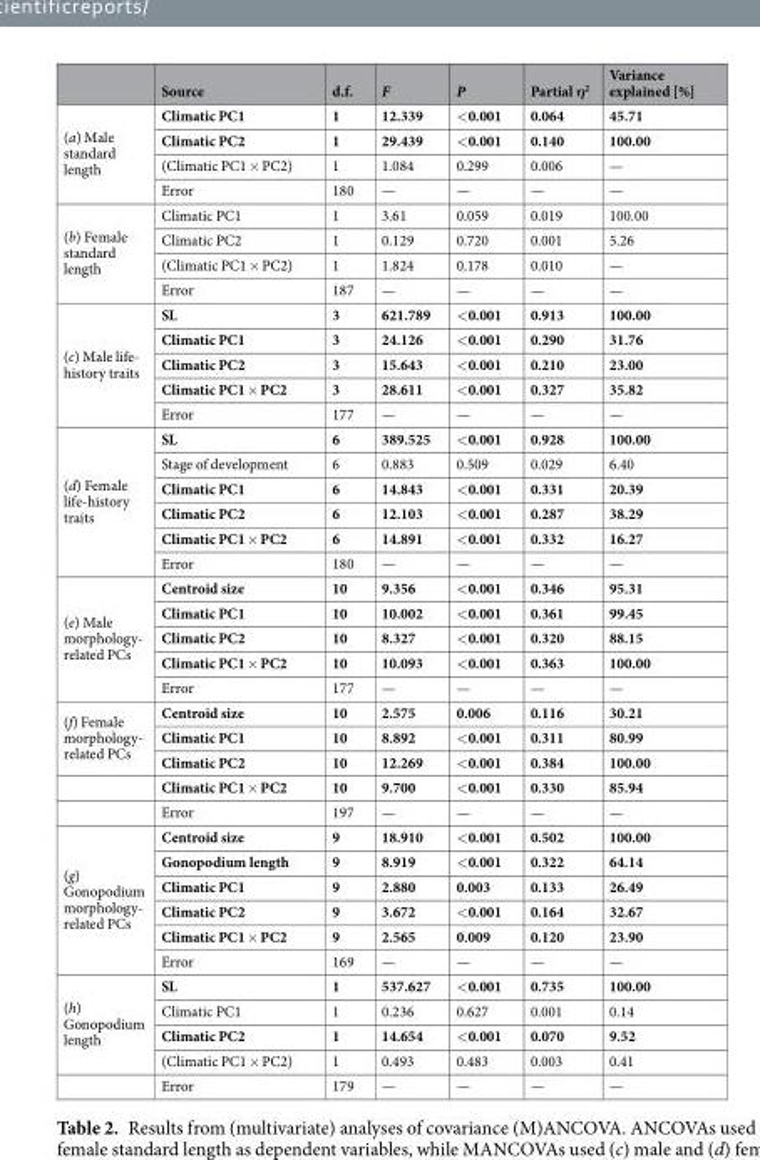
<table><thead><tr><td></td><td>Source</td><td>d.f.</td><td>F</td><td>P</td><td>Partial η<sup>2</sup></td><td>Variance explained [%]</td></tr></thead><tbody><tr><td rowspan="4">(a) Male standard length</td><td>Climatic PC1</td><td>1</td><td>12.339</td><td>&lt;0.001</td><td>0.064</td><td>45.71</td></tr><tr><td>Climatic PC2</td><td>1</td><td>29.439</td><td>&lt;0.001</td><td>0.140</td><td>100.00</td></tr><tr><td>(Climatic PC1 × PC2)</td><td>1</td><td>1.084</td><td>0.299</td><td>0.006</td><td>—</td></tr><tr><td>Error</td><td>180</td><td>—</td><td>—</td><td>—</td><td>—</td></tr><tr><td rowspan="4">(b) Female standard length</td><td>Climatic PC1</td><td>1</td><td>3.61</td><td>0.059</td><td>0.019</td><td>100.00</td></tr><tr><td>Climatic PC2</td><td>1</td><td>0.129</td><td>0.720</td><td>0.001</td><td>5.26</td></tr><tr><td>(Climatic PC1 × PC2)</td><td>1</td><td>1.824</td><td>0.178</td><td>0.010</td><td>—</td></tr><tr><td>Error</td><td>187</td><td>—</td><td>—</td><td>—</td><td>—</td></tr><tr><td rowspan="5">(c) Male life- history traits</td><td>SL</td><td>3</td><td>621.789</td><td>&lt;0.001</td><td>0.913</td><td>100.00</td></tr><tr><td>Climatic PC1</td><td>3</td><td>24.126</td><td>&lt;0.001</td><td>0.290</td><td>31.76</td></tr><tr><td>Climatic PC2</td><td>3</td><td>15.643</td><td>&lt;0.001</td><td>0.210</td><td>23.00</td></tr><tr><td>Climatic PC1 × PC2</td><td>3</td><td>28.611</td><td>&lt;0.001</td><td>0.327</td><td>35.82</td></tr><tr><td>Error</td><td>177</td><td>—</td><td>—</td><td>—</td><td>—</td></tr><tr><td rowspan="6">(d) Female life-history traits</td><td>SL</td><td>6</td><td>389.525</td><td>&lt;0.001</td><td>0.928</td><td>100.00</td></tr><tr><td>Stage of development</td><td>6</td><td>0.883</td><td>0.509</td><td>0.029</td><td>6.40</td></tr><tr><td>Climatic PC1</td><td>6</td><td>14.843</td><td>&lt;0.001</td><td>0.331</td><td>20.39</td></tr><tr><td>Climatic PC2</td><td>6</td><td>12.103</td><td>&lt;0.001</td><td>0.287</td><td>38.29</td></tr><tr><td>Climatic PC1 × PC2</td><td>6</td><td>14.891</td><td>&lt;0.001</td><td>0.332</td><td>16.27</td></tr><tr><td>Error</td><td>180</td><td>—</td><td>—</td><td>—</td><td>—</td></tr><tr><td rowspan="5">(e) Male morphology- related PCs</td><td>Centroid size</td><td>10</td><td>9.356</td><td>&lt;0.001</td><td>0.346</td><td>95.31</td></tr><tr><td>Climatic PC1</td><td>10</td><td>10.002</td><td>&lt;0.001</td><td>0.361</td><td>99.45</td></tr><tr><td>Climatic PC2</td><td>10</td><td>8.327</td><td>&lt;0.001</td><td>0.320</td><td>88.15</td></tr><tr><td>Climatic PC1 × PC2</td><td>10</td><td>10.093</td><td>&lt;0.001</td><td>0.363</td><td>100.00</td></tr><tr><td>Error</td><td>177</td><td>—</td><td>—</td><td>—</td><td>—</td></tr><tr><td rowspan="5">(f) Female morphology- related PCs</td><td>Centroid size</td><td>10</td><td>2.575</td><td>0.006</td><td>0.116</td><td>30.21</td></tr><tr><td>Climatic PC1</td><td>10</td><td>8.892</td><td>&lt;0.001</td><td>0.311</td><td>80.99</td></tr><tr><td>Climatic PC2</td><td>10</td><td>12.269</td><td>&lt;0.001</td><td>0.384</td><td>100.00</td></tr><tr><td>Climatic PC1 × PC2</td><td>10</td><td>9.700</td><td>&lt;0.001</td><td>0.330</td><td>85.94</td></tr><tr><td>Error</td><td>197</td><td>—</td><td>—</td><td>—</td><td>—</td></tr><tr><td rowspan="6">(g) Gonopodium morphology- related PCs</td><td>Centroid size</td><td>9</td><td>18.910</td><td>&lt;0.001</td><td>0.502</td><td>100.00</td></tr><tr><td>Gonopodium length</td><td>9</td><td>8.919</td><td>&lt;0.001</td><td>0.322</td><td>64.14</td></tr><tr><td>Climatic PC1</td><td>9</td><td>2.880</td><td>0.003</td><td>0.133</td><td>26.49</td></tr><tr><td>Climatic PC2</td><td>9</td><td>3.672</td><td>&lt;0.001</td><td>0.164</td><td>32.67</td></tr><tr><td>Climatic PC1 × PC2</td><td>9</td><td>2.565</td><td>0.009</td><td>0.120</td><td>23.90</td></tr><tr><td>Error</td><td>169</td><td>—</td><td>—</td><td>—</td><td>—</td></tr><tr><td rowspan="5">(h) Gonopodium length</td><td>SL</td><td>1</td><td>537.627</td><td>&lt;0.001</td><td>0.735</td><td>100.00</td></tr><tr><td>Climatic PC1</td><td>1</td><td>0.236</td><td>0.627</td><td>0.001</td><td>0.14</td></tr><tr><td>Climatic PC2</td><td>1</td><td>14.654</td><td>&lt;0.001</td><td>0.070</td><td>9.52</td></tr><tr><td>(Climatic PC1 × PC2)</td><td>1</td><td>0.493</td><td>0.483</td><td>0.003</td><td>0.41</td></tr><tr><td>Error</td><td>179</td><td>—</td><td>—</td><td>—</td><td>—</td></tr></tbody></table>